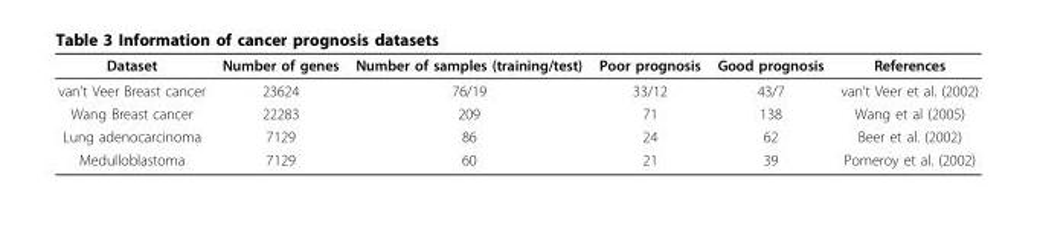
<table><thead><tr><td>Dataset</td><td>Number of genes</td><td>Number of samples (training/test)</td><td>Poor prognosis</td><td>Good prognosis</td><td>References</td></tr></thead><tbody><tr><td>van’t Veer Breast cancer</td><td>23624</td><td>76/19</td><td>33/12</td><td>43/7</td><td>van’t Veer et al. (2002)</td></tr><tr><td>Wang Breast cancer</td><td>22283</td><td>209</td><td>71</td><td>138</td><td>Wang et al (2005)</td></tr><tr><td>Lung adenocarcinoma</td><td>7129</td><td>86</td><td>24</td><td>62</td><td>Beer et al. (2002)</td></tr><tr><td>Medulloblastoma</td><td>7129</td><td>60</td><td>21</td><td>39</td><td>Pomeroy et al. (2002)</td></tr></tbody></table>